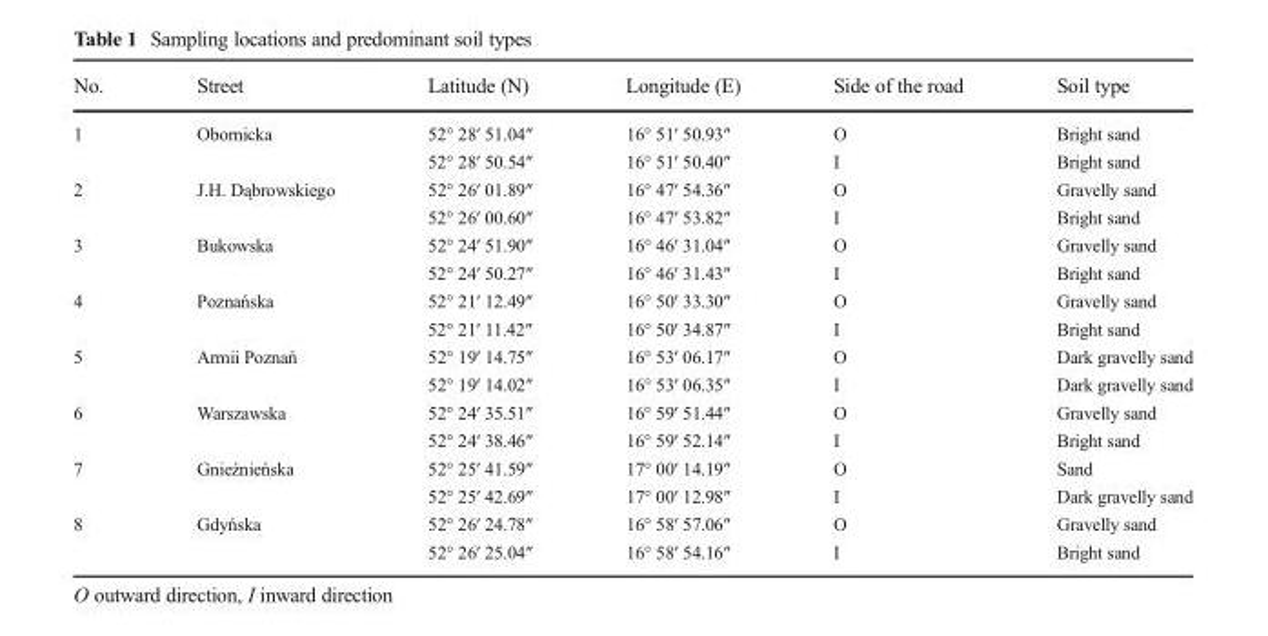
<table><thead><tr><td>No.</td><td>Street</td><td>Latitude (N)</td><td>Longitude (E)</td><td>Side of the road</td><td>Soil type</td></tr></thead><tbody><tr><td rowspan="2">1</td><td rowspan="2">Obornicka</td><td>52° 28′ 51.04″</td><td>16° 51′ 50.93″</td><td>O</td><td>Bright sand</td></tr><tr><td>52° 28′ 50.54″</td><td>16° 51′ 50.40″</td><td>I</td><td>Bright sand</td></tr><tr><td rowspan="2">2</td><td rowspan="2">J.H. Dąbrowskiego</td><td>52° 26′ 01.89″</td><td>16° 47′ 54.36″</td><td>O</td><td>Gravelly sand</td></tr><tr><td>52° 26′ 00.60″</td><td>16° 47′ 53.82″</td><td>I</td><td>Bright sand</td></tr><tr><td rowspan="2">3</td><td rowspan="2">Bukowska</td><td>52° 24′ 51.90″</td><td>16° 46′ 31.04″</td><td>O</td><td>Gravelly sand</td></tr><tr><td>52° 24′ 50.27″</td><td>16° 46′ 31.43″</td><td>I</td><td>Bright sand</td></tr><tr><td rowspan="2">4</td><td rowspan="2">Poznańska</td><td>52° 21′ 12.49″</td><td>16° 50′ 33.30″</td><td>O</td><td>Gravelly sand</td></tr><tr><td>52° 21′ 11.42″</td><td>16° 50′ 34.87″</td><td>I</td><td>Bright sand</td></tr><tr><td rowspan="2">5</td><td rowspan="2">Armii Poznań</td><td>52° 19′ 14.75″</td><td>16° 53′ 06.17″</td><td>O</td><td>Dark gravelly sand</td></tr><tr><td>52° 19′ 14.02″</td><td>16° 53′ 06.35″</td><td>I</td><td>Dark gravelly sand</td></tr><tr><td rowspan="2">6</td><td rowspan="2">Warszawska</td><td>52° 24′ 35.51″</td><td>16° 59′ 51.44″</td><td>O</td><td>Gravelly sand</td></tr><tr><td>52° 24′ 38.46″</td><td>16° 59′ 52.14″</td><td>I</td><td>Bright sand</td></tr><tr><td rowspan="2">7</td><td rowspan="2">Gnieźnieńska</td><td>52° 25′ 41.59″</td><td>17° 00′ 14.19″</td><td>O</td><td>Sand</td></tr><tr><td>52° 25′ 42.69″</td><td>17° 00′ 12.98″</td><td>I</td><td>Dark gravelly sand</td></tr><tr><td rowspan="2">8</td><td rowspan="2">Gdyńska</td><td>52° 26′ 24.78″</td><td>16° 58′ 57.06″</td><td>O</td><td>Gravelly sand</td></tr><tr><td>52° 26′ 25.04″</td><td>16° 58′ 54.16″</td><td>I</td><td>Bright sand</td></tr></tbody></table>